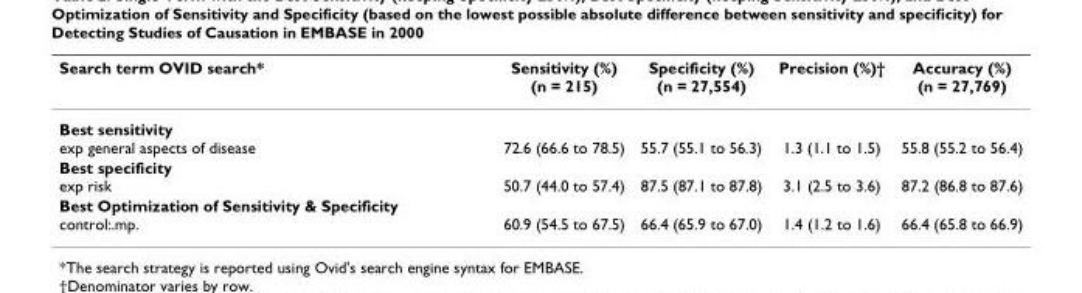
<table><thead><tr><td>Search term OVID search*</td><td>Sensitivity (%) (n = 215)</td><td>Specificity (%) (n = 27,554)</td><td>Precision (%)†</td><td>Accuracy (%) (n = 27,769)</td></tr></thead><tbody><tr><td>Best sensitivity exp general aspects of disease</td><td>72.6 (66.6 to 78.5)</td><td>55.7 (55.1 to 56.3)</td><td>1.3 (1.1 to 1.5)</td><td>55.8 (55.2 to 56.4)</td></tr><tr><td>Best specificity exp risk</td><td>50.7 (44.0 to 57.4)</td><td>87.5 (87.1 to 87.8)</td><td>3.1 (2.5 to 3.6)</td><td>87.2 (86.8 to 87.6)</td></tr><tr><td>Best Optimization of Sensitivity &amp; Specificity control:.mp.</td><td>60.9 (54.5 to 67.5)</td><td>66.4 (65.9 to 67.0)</td><td>1.4 (1.2 to 1.6)</td><td>66.4 (65.8 to 66.9)</td></tr></tbody></table>